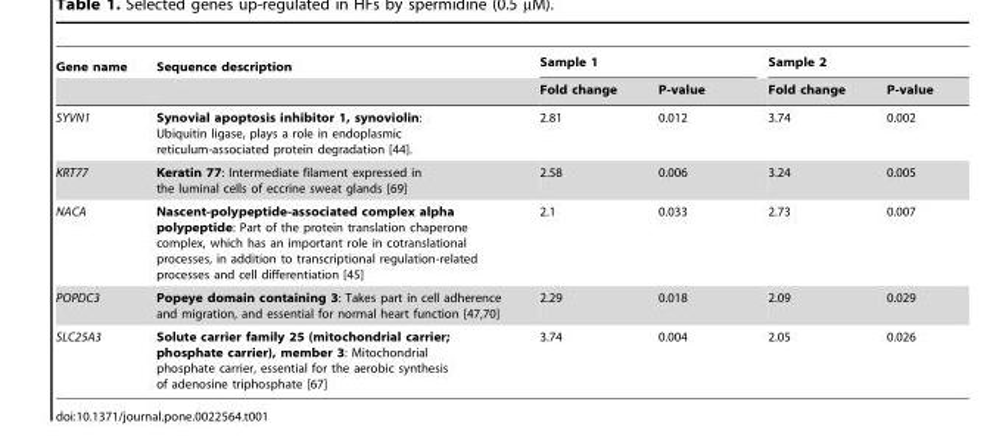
<table><thead><tr><td rowspan="2">Gene name</td><td rowspan="2">Sequence description</td><td colspan="2">Sample 1</td><td colspan="2">Sample 2</td></tr><tr><td>Fold change</td><td>P-value</td><td>Fold change</td><td>P-value</td></tr></thead><tbody><tr><td>SYVN1</td><td>Synovial apoptosis inhibitor 1, synoviolin: Ubiquitin ligase, plays a role in endoplasmic reticulum-associated protein degradation [44].</td><td>2.81</td><td>0.012</td><td>3.74</td><td>0.002</td></tr><tr><td>KRT77</td><td>Keratin 77: Intermediate filament expressed in the luminal cells of eccrine sweat glands [69]</td><td>2.58</td><td>0.006</td><td>3.24</td><td>0.005</td></tr><tr><td>NACA</td><td>Nascent-polypeptide-associated complex alpha polypeptide: Part of the protein translation chaperone complex, which has an important role in cotranslational processes, in addition to transcriptional regulation-related processes and cell differentiation [45]</td><td>2.1</td><td>0.033</td><td>2.73</td><td>0.007</td></tr><tr><td>POPDC3</td><td>Popeye domain containing 3: Takes part in cell adherence and migration, and essential for normal heart function [47,70]</td><td>2.29</td><td>0.018</td><td>2.09</td><td>0.029</td></tr><tr><td>SLC25A3</td><td>Solute carrier family 25 (mitochondrial carrier; phosphate carrier), member 3: Mitochondrial phosphate carrier, essential for the aerobic synthesis of adenosine triphosphate [67]</td><td>3.74</td><td>0.004</td><td>2.05</td><td>0.026</td></tr></tbody></table>